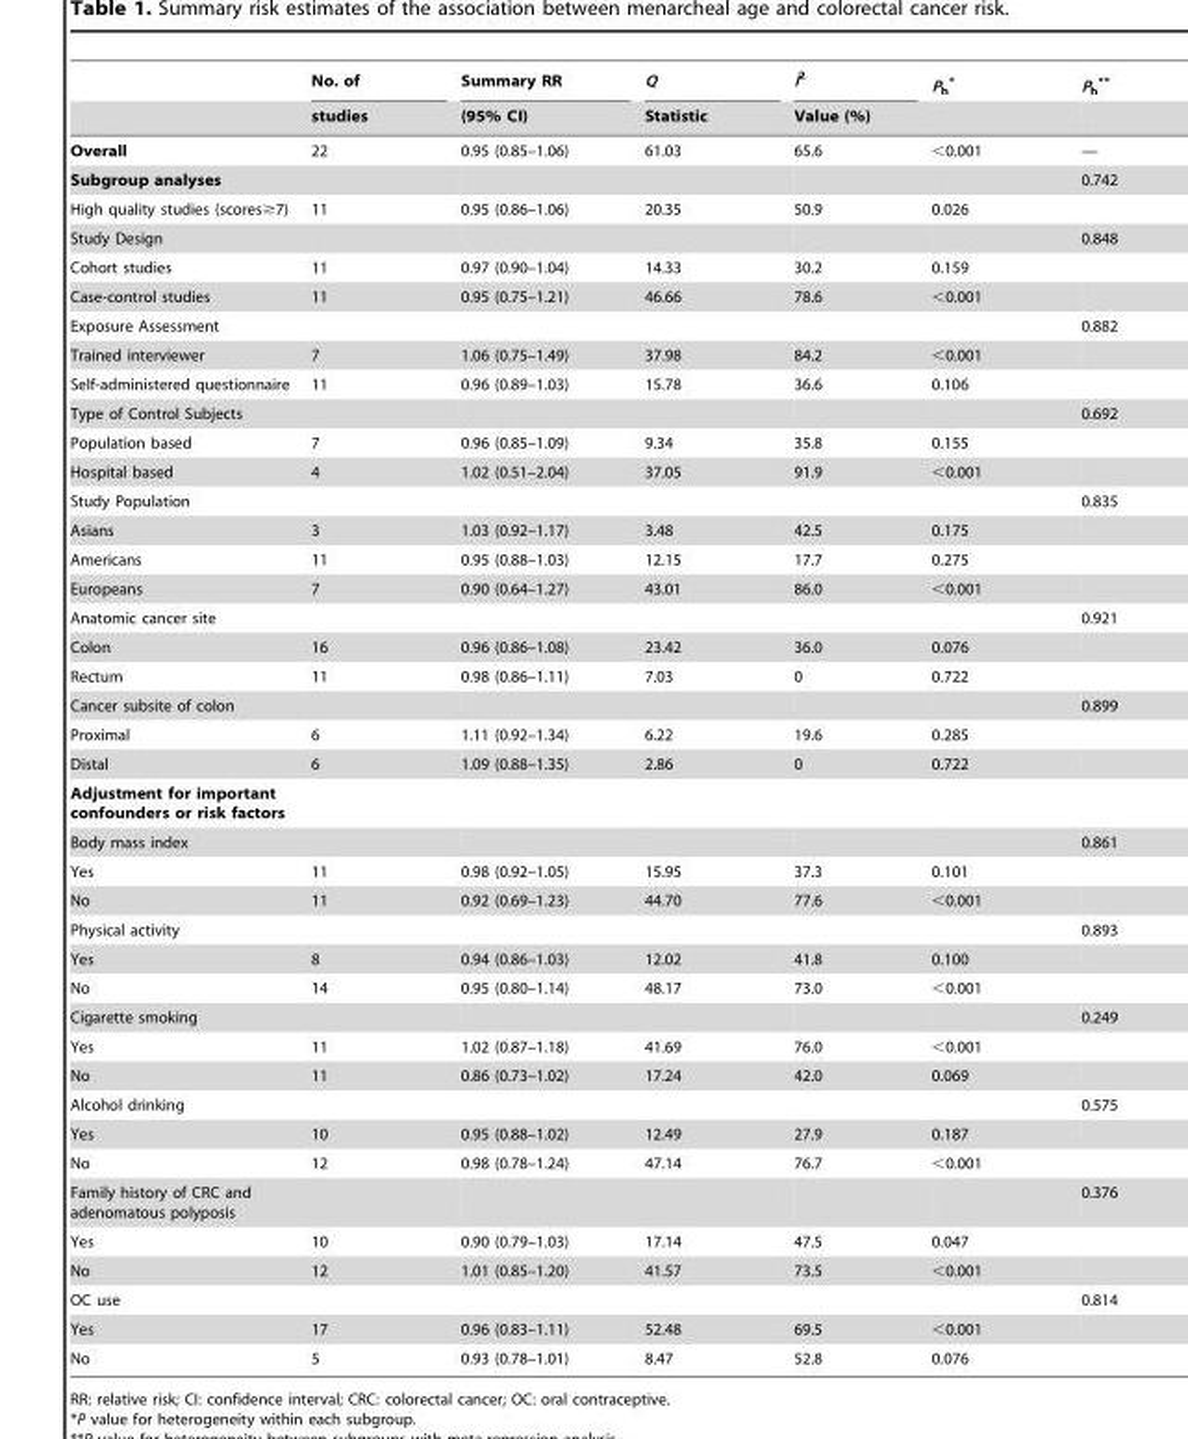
<table><thead><tr><td rowspan="2"></td><td rowspan="2">No. of studies</td><td rowspan="2">Summary RR (95% CI)</td><td rowspan="2">Q Statistic</td><td rowspan="2">I<sup>2</sup> Value (%)</td><td rowspan="2">Ph *</td><td rowspan="2">Ph **</td></tr><tr></tr></thead><tbody><tr><td>Overall</td><td>22</td><td>0.95 (0.85–1.06)</td><td>61.03</td><td>65.6</td><td>&lt;0.001</td><td>—</td></tr><tr><td>Subgroup analyses</td><td></td><td></td><td></td><td></td><td></td><td>0.742</td></tr><tr><td>High quality studies (scores≥7)</td><td>11</td><td>0.95 (0.86–1.06)</td><td>20.35</td><td>50.9</td><td>0.026</td><td></td></tr><tr><td>Study Design</td><td></td><td></td><td></td><td></td><td></td><td>0.848</td></tr><tr><td>Cohort studies</td><td>11</td><td>0.97 (0.90–1.04)</td><td>14.33</td><td>30.2</td><td>0.159</td><td></td></tr><tr><td>Case-control studies</td><td>11</td><td>0.95 (0.75–1.21)</td><td>46.66</td><td>78.6</td><td>&lt;0.001</td><td></td></tr><tr><td>Exposure Assessment</td><td></td><td></td><td></td><td></td><td></td><td>0.882</td></tr><tr><td>Trained interviewer</td><td>7</td><td>1.06 (0.75–1.49)</td><td>37.98</td><td>84.2</td><td>&lt;0.001</td><td></td></tr><tr><td>Self-administered questionnaire</td><td>11</td><td>0.96 (0.89–1.03)</td><td>15.78</td><td>36.6</td><td>0.106</td><td></td></tr><tr><td>Type of Control Subjects</td><td></td><td></td><td></td><td></td><td></td><td>0.692</td></tr><tr><td>Population based</td><td>7</td><td>0.96 (0.85–1.09)</td><td>9.34</td><td>35.8</td><td>0.155</td><td></td></tr><tr><td>Hospital based</td><td>4</td><td>1.02 (0.51–2.04)</td><td>37.05</td><td>91.9</td><td>&lt;0.001</td><td></td></tr><tr><td>Study Population</td><td></td><td></td><td></td><td></td><td></td><td>0.835</td></tr><tr><td>Asians</td><td>3</td><td>1.03 (0.92–1.17)</td><td>3.48</td><td>42.5</td><td>0.175</td><td></td></tr><tr><td>Americans</td><td>11</td><td>0.95 (0.88–1.03)</td><td>12.15</td><td>17.7</td><td>0.275</td><td></td></tr><tr><td>Europeans</td><td>7</td><td>0.90 (0.64–1.27)</td><td>43.01</td><td>86.0</td><td>&lt;0.001</td><td></td></tr><tr><td>Anatomic cancer site</td><td></td><td></td><td></td><td></td><td></td><td>0.921</td></tr><tr><td>Colon</td><td>16</td><td>0.96 (0.86–1.08)</td><td>23.42</td><td>36.0</td><td>0.076</td><td></td></tr><tr><td>Rectum</td><td>11</td><td>0.98 (0.86–1.11)</td><td>7.03</td><td>0</td><td>0.722</td><td></td></tr><tr><td>Cancer subsite of colon</td><td></td><td></td><td></td><td></td><td></td><td>0.899</td></tr><tr><td>Proximal</td><td>6</td><td>1.11 (0.92–1.34)</td><td>6.22</td><td>19.6</td><td>0.285</td><td></td></tr><tr><td>Distal</td><td>6</td><td>1.09 (0.88–1.35)</td><td>2.86</td><td>0</td><td>0.722</td><td></td></tr><tr><td colspan="7">Adjustment for important confounders or risk factors</td></tr><tr><td>Body mass index</td><td></td><td></td><td></td><td></td><td></td><td>0.861</td></tr><tr><td>Yes</td><td>11</td><td>0.98 (0.92–1.05)</td><td>15.95</td><td>37.3</td><td>0.101</td><td></td></tr><tr><td>No</td><td>11</td><td>0.92 (0.69–1.23)</td><td>44.70</td><td>77.6</td><td>&lt;0.001</td><td></td></tr><tr><td>Physical activity</td><td></td><td></td><td></td><td></td><td></td><td>0.893</td></tr><tr><td>Yes</td><td>8</td><td>0.94 (0.86–1.03)</td><td>12.02</td><td>41.8</td><td>0.100</td><td></td></tr><tr><td>No</td><td>14</td><td>0.95 (0.80–1.14)</td><td>48.17</td><td>73.0</td><td>&lt;0.001</td><td></td></tr><tr><td>Cigarette smoking</td><td></td><td></td><td></td><td></td><td></td><td>0.249</td></tr><tr><td>Yes</td><td>11</td><td>1.02 (0.87–1.18)</td><td>41.69</td><td>76.0</td><td>&lt;0.001</td><td></td></tr><tr><td>No</td><td>11</td><td>0.86 (0.73–1.02)</td><td>17.24</td><td>42.0</td><td>0.069</td><td></td></tr><tr><td>Alcohol drinking</td><td></td><td></td><td></td><td></td><td></td><td>0.575</td></tr><tr><td>Yes</td><td>10</td><td>0.95 (0.88–1.02)</td><td>12.49</td><td>27.9</td><td>0.187</td><td></td></tr><tr><td>No</td><td>12</td><td>0.98 (0.78–1.24)</td><td>47.14</td><td>76.7</td><td>&lt;0.001</td><td></td></tr><tr><td>Family history of CRC and adenomatous polyposis</td><td></td><td></td><td></td><td></td><td></td><td>0.376</td></tr><tr><td>Yes</td><td>10</td><td>0.90 (0.79–1.03)</td><td>17.14</td><td>47.5</td><td>0.047</td><td></td></tr><tr><td>No</td><td>12</td><td>1.01 (0.85–1.20)</td><td>41.57</td><td>73.5</td><td>&lt;0.001</td><td></td></tr><tr><td>OC use</td><td></td><td></td><td></td><td></td><td></td><td>0.814</td></tr><tr><td>Yes</td><td>17</td><td>0.96 (0.83–1.11)</td><td>52.48</td><td>69.5</td><td>&lt;0.001</td><td></td></tr><tr><td>No</td><td>5</td><td>0.93 (0.78–1.01)</td><td>8.47</td><td>52.8</td><td>0.076</td><td></td></tr></tbody></table>